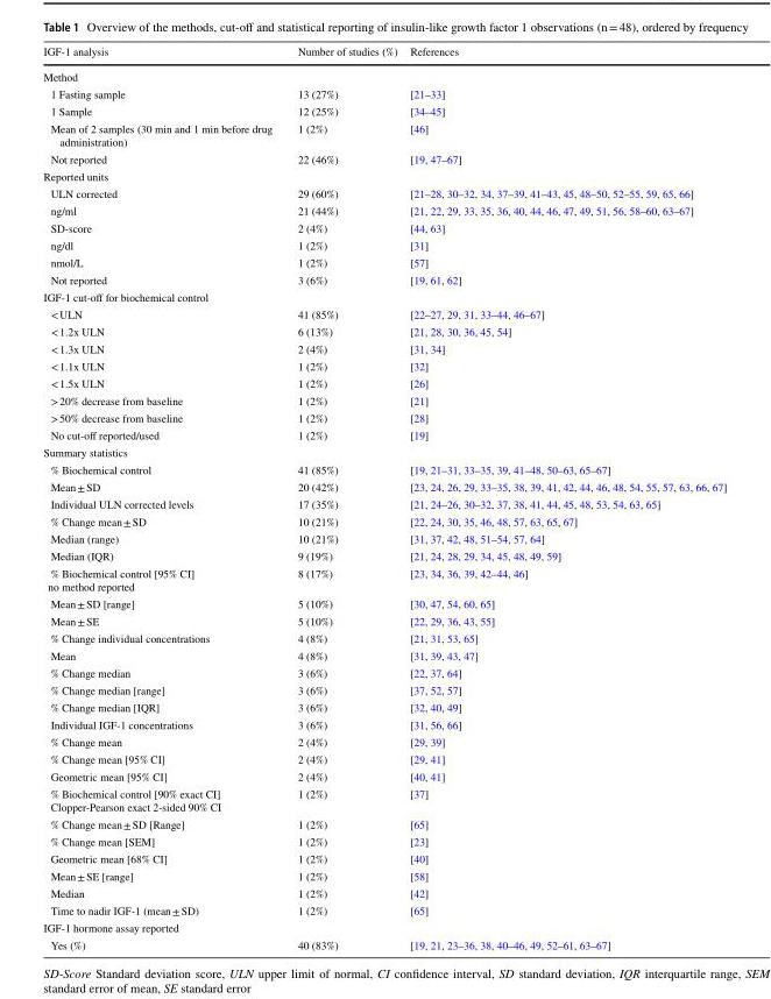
<table><thead><tr><td>IGF-1 analysis</td><td>Number of studies (%)</td><td>References</td></tr></thead><tbody><tr><td colspan="3">Method</td></tr><tr><td>1 Fasting sample</td><td>13 (27%)</td><td>[21–33]</td></tr><tr><td>1 Sample</td><td>12 (25%)</td><td>[34–45]</td></tr><tr><td>Mean of 2 samples (30 min and 1 min before drug administration)</td><td>1 (2%)</td><td>[46]</td></tr><tr><td>Not reported</td><td>22 (46%)</td><td>[19, 47–67]</td></tr><tr><td colspan="3">Reported units</td></tr><tr><td>ULN corrected</td><td>29 (60%)</td><td>[21–28, 30–32, 34, 37–39, 41–43, 45, 48–50, 52–55, 59, 65, 66]</td></tr><tr><td>ng/ml</td><td>21 (44%)</td><td>[21, 22, 29, 33, 35, 36, 40, 44, 46, 47, 49, 51, 56, 58–60, 63–67]</td></tr><tr><td>SD-score</td><td>2 (4%)</td><td>[44, 63]</td></tr><tr><td>ng/dl</td><td>1 (2%)</td><td>[31]</td></tr><tr><td>nmol/L</td><td>1 (2%)</td><td>[57]</td></tr><tr><td>Not reported</td><td>3 (6%)</td><td>[19, 61, 62]</td></tr><tr><td colspan="3">IGF-1 cut-off for biochemical control</td></tr><tr><td>&lt; ULN</td><td>41 (85%)</td><td>[22–27, 29, 31, 33–44, 46–67]</td></tr><tr><td>&lt; 1.2x ULN</td><td>6 (13%)</td><td>[21, 28, 30, 36, 45, 54]</td></tr><tr><td>&lt; 1.3x ULN</td><td>2 (4%)</td><td>[31, 34]</td></tr><tr><td>&lt; 1.1x ULN</td><td>1 (2%)</td><td>[32]</td></tr><tr><td>&lt; 1.5x ULN</td><td>1 (2%)</td><td>[26]</td></tr><tr><td>&gt; 20% decrease from baseline</td><td>1 (2%)</td><td>[21]</td></tr><tr><td>&gt; 50% decrease from baseline</td><td>1 (2%)</td><td>[28]</td></tr><tr><td>No cut-off reported/used</td><td>1 (2%)</td><td>[19]</td></tr><tr><td colspan="3">Summary statistics</td></tr><tr><td>% Biochemical control</td><td>41 (85%)</td><td>[19, 21–31, 33–35, 39, 41–48, 50–63, 65–67]</td></tr><tr><td>Mean ± SD</td><td>20 (42%)</td><td>[23, 24, 26, 29, 33–35, 38, 39, 41, 42, 44, 46, 48, 54, 55, 57, 63, 66, 67]</td></tr><tr><td>Individual ULN corrected levels</td><td>17 (35%)</td><td>[21, 24–26, 30–32, 37, 38, 41, 44, 45, 48, 53, 54, 63, 65]</td></tr><tr><td>% Change mean ± SD</td><td>10 (21%)</td><td>[22, 24, 30, 35, 46, 48, 57, 63, 65, 67]</td></tr><tr><td>Median (range)</td><td>10 (21%)</td><td>[31, 37, 42, 48, 51–54, 57, 64]</td></tr><tr><td>Median (IQR)</td><td>9 (19%)</td><td>[21, 24, 28, 29, 34, 45, 48, 49, 59]</td></tr><tr><td>% Biochemical control [95% CI] no method reported</td><td>8 (17%)</td><td>[23, 34, 36, 39, 42–44, 46]</td></tr><tr><td>Mean ± SD [range]</td><td>5 (10%)</td><td>[30, 47, 54, 60, 65]</td></tr><tr><td>Mean ± SE</td><td>5 (10%)</td><td>[22, 29, 36, 43, 55]</td></tr><tr><td>% Change individual concentrations</td><td>4 (8%)</td><td>[21, 31, 53, 65]</td></tr><tr><td>Mean</td><td>4 (8%)</td><td>[31, 39, 43, 47]</td></tr><tr><td>% Change median</td><td>3 (6%)</td><td>[22, 37, 64]</td></tr><tr><td>% Change median [range]</td><td>3 (6%)</td><td>[37, 52, 57]</td></tr><tr><td>% Change median [IQR]</td><td>3 (6%)</td><td>[32, 40, 49]</td></tr><tr><td>Individual IGF-1 concentrations</td><td>3 (6%)</td><td>[31, 56, 66]</td></tr><tr><td>% Change mean</td><td>2 (4%)</td><td>[29, 39]</td></tr><tr><td>% Change mean [95% CI]</td><td>2 (4%)</td><td>[29, 41]</td></tr><tr><td>Geometric mean [95% CI]</td><td>2 (4%)</td><td>[40, 41]</td></tr><tr><td>% Biochemical control [90% exact CI] Clopper-Pearson exact 2-sided 90% CI</td><td>1 (2%)</td><td>[37]</td></tr><tr><td>% Change mean ± SD [Range]</td><td>1 (2%)</td><td>[65]</td></tr><tr><td>% Change mean [SEM]</td><td>1 (2%)</td><td>[23]</td></tr><tr><td>Geometric mean [68% CI]</td><td>1 (2%)</td><td>[40]</td></tr><tr><td>Mean ± SE [range]</td><td>1 (2%)</td><td>[58]</td></tr><tr><td>Median</td><td>1 (2%)</td><td>[42]</td></tr><tr><td>Time to nadir IGF-1 (mean ± SD)</td><td>1 (2%)</td><td>[65]</td></tr><tr><td colspan="3">IGF-1 hormone assay reported</td></tr><tr><td>Yes (%)</td><td>40 (83%)</td><td>[19, 21, 23–36, 38, 40–46, 49, 52–61, 63–67]</td></tr></tbody></table>